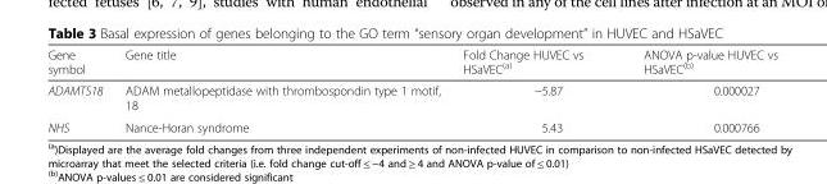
<table><thead><tr><td>Gene symbol</td><td>Gene title</td><td>Fold Change HUVEC vs HSaVEC<sup>(a)</sup></td><td>ANOVA p-value HUVEC vs HSaVEC<sup>(b)</sup></td></tr></thead><tbody><tr><td>ADAMTS18</td><td>ADAM metallopeptidase with thrombospondin type 1 motif, 18</td><td>−5.87</td><td>0.000027</td></tr><tr><td>NHS</td><td>Nance-Horan syndrome</td><td>5.43</td><td>0.000766</td></tr></tbody></table>